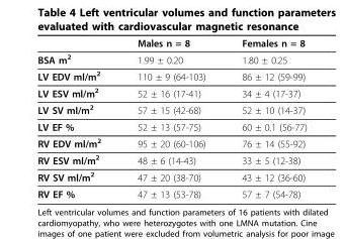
<table><thead><tr><td></td><td>Males n = 8</td><td>Females n = 8</td></tr></thead><tbody><tr><td>BSA m2</td><td>1.99 ± 0.20</td><td>1.80 ± 0.25</td></tr><tr><td>LV EDV ml/m2</td><td>110 ± 9 (64-103)</td><td>86 ± 12 (59-99)</td></tr><tr><td>LV ESV ml/m2</td><td>52 ± 16 (17-41)</td><td>34 ± 4 (17-37)</td></tr><tr><td>LV SV ml/m2</td><td>57 ± 15 (42-68)</td><td>52 ± 10 (14-37)</td></tr><tr><td>LV EF %</td><td>52 ± 13 (57-75)</td><td>60 ± 0.1 (56-77)</td></tr><tr><td>RV EDV ml/m2</td><td>95 ± 20 (60-106)</td><td>76 ± 14 (55-92)</td></tr><tr><td>RV ESV ml/m2</td><td>48 ± 6 (14-43)</td><td>33 ± 5 (12-38)</td></tr><tr><td>RV SV ml/m2</td><td>47 ± 20 (38-70)</td><td>43 ± 12 (36-60)</td></tr><tr><td>RV EF %</td><td>47 ± 13 (53-78)</td><td>57 ± 7 (54-78)</td></tr></tbody></table>